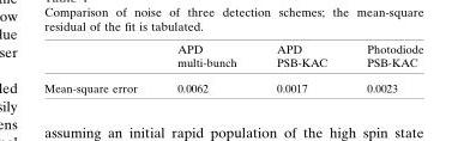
<table><thead><tr><td></td><td>APD multi-bunch</td><td>APD PSB-KAC</td><td>Photodiode PSB-KAC</td></tr></thead><tbody><tr><td>Mean-square error</td><td>0.0062</td><td>0.0017</td><td>0.0023</td></tr></tbody></table>